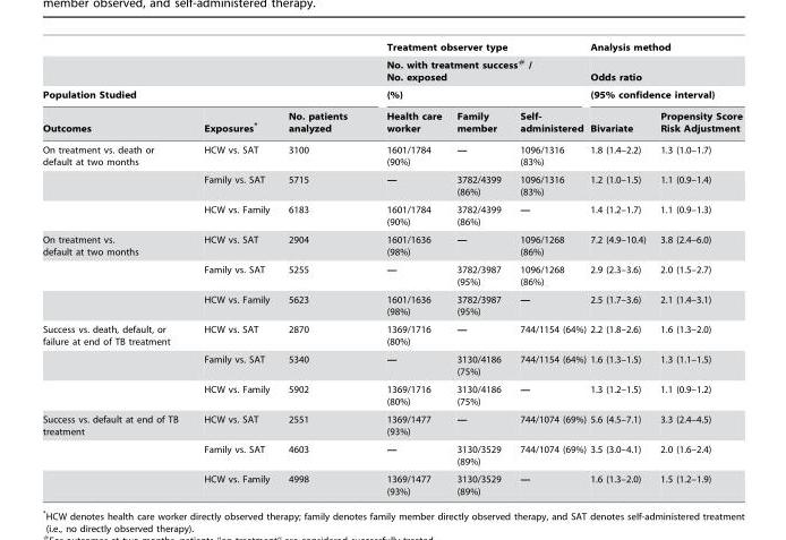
<table><thead><tr><td rowspan="2"></td><td rowspan="2"></td><td rowspan="2"></td><td rowspan="3" colspan="3">Treatment observer type No. with treatment success# / No. exposed (%)</td><td rowspan="3" colspan="2">Analysis method Odds ratio (95% confidence interval)</td></tr><tr></tr><tr><td colspan="3">Population Studied</td></tr><tr><td>Outcomes</td><td>Exposures*</td><td>No. patients analyzed</td><td>Health care worker</td><td>Family member</td><td>Self- administered</td><td>Bivariate</td><td>Propensity Score Risk Adjustment</td></tr></thead><tbody><tr><td rowspan="3">On treatment vs. death or default at two months</td><td>HCW vs. SAT</td><td>3100</td><td>1601/1784 (90%)</td><td>—</td><td>1096/1316 (83%)</td><td>1.8 (1.4–2.2)</td><td>1.3 (1.0–1.7)</td></tr><tr><td>Family vs. SAT</td><td>5715</td><td>—</td><td>3782/4399 (86%)</td><td>1096/1316 (83%)</td><td>1.2 (1.0–1.5)</td><td>1.1 (0.9–1.4)</td></tr><tr><td>HCW vs. Family</td><td>6183</td><td>1601/1784 (90%)</td><td>3782/4399 (86%)</td><td>—</td><td>1.4 (1.2–1.7)</td><td>1.1 (0.9–1.3)</td></tr><tr><td rowspan="3">On treatment vs. default at two months</td><td>HCW vs. SAT</td><td>2904</td><td>1601/1636 (98%)</td><td>—</td><td>1096/1268 (86%)</td><td>7.2 (4.9–10.4)</td><td>3.8 (2.4–6.0)</td></tr><tr><td>Family vs. SAT</td><td>5255</td><td>—</td><td>3782/3987 (95%)</td><td>1096/1268 (86%)</td><td>2.9 (2.3–3.6)</td><td>2.0 (1.5–2.7)</td></tr><tr><td>HCW vs. Family</td><td>5623</td><td>1601/1636 (98%)</td><td>3782/3987 (95%)</td><td>—</td><td>2.5 (1.7–3.6)</td><td>2.1 (1.4–3.1)</td></tr><tr><td rowspan="3">Success vs. death, default, or failure at end of TB treatment</td><td>HCW vs. SAT</td><td>2870</td><td>1369/1716 (80%)</td><td>—</td><td>744/1154 (64%)</td><td>2.2 (1.8–2.6)</td><td>1.6 (1.3–2.0)</td></tr><tr><td>Family vs. SAT</td><td>5340</td><td>—</td><td>3130/4186 (75%)</td><td>744/1154 (64%)</td><td>1.6 (1.3–1.5)</td><td>1.3 (1.1–1.5)</td></tr><tr><td>HCW vs. Family</td><td>5902</td><td>1369/1716 (80%)</td><td>3130/4186 (75%)</td><td>—</td><td>1.3 (1.2–1.5)</td><td>1.1 (0.9–1.2)</td></tr><tr><td rowspan="3">Success vs. default at end of TB treatment</td><td>HCW vs. SAT</td><td>2551</td><td>1369/1477 (93%)</td><td>—</td><td>744/1074 (69%)</td><td>5.6 (4.5–7.1)</td><td>3.3 (2.4–4.5)</td></tr><tr><td>Family vs. SAT</td><td>4603</td><td>—</td><td>3130/3529 (89%)</td><td>744/1074 (69%)</td><td>3.5 (3.0–4.1)</td><td>2.0 (1.6–2.4)</td></tr><tr><td>HCW vs. Family</td><td>4998</td><td>1369/1477 (93%)</td><td>3130/3529 (89%)</td><td>—</td><td>1.6 (1.3–2.0)</td><td>1.5 (1.2–1.9)</td></tr></tbody></table>